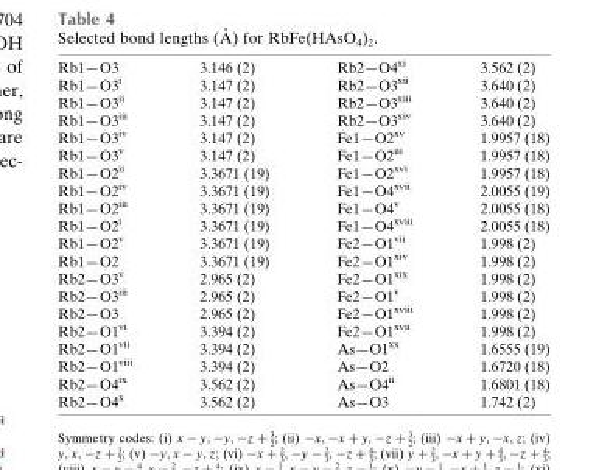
<table><tbody><tr><td>Rb1—O3</td><td>3.146 (2)</td><td>Rb2—O4<sup>xi</sup></td><td>3.562 (2)</td></tr><tr><td>Rb1—O3<sup>i</sup></td><td>3.147 (2)</td><td>Rb2—O3<sup>xii</sup></td><td>3.640 (2)</td></tr><tr><td>Rb1—O3<sup>ii</sup></td><td>3.147 (2)</td><td>Rb2—O3<sup>xiii</sup></td><td>3.640 (2)</td></tr><tr><td>Rb1—O3<sup>iii</sup></td><td>3.147 (2)</td><td>Rb2—O3<sup>xiv</sup></td><td>3.640 (2)</td></tr><tr><td>Rb1—O3<sup>iv</sup></td><td>3.147 (2)</td><td>Fe1—O2<sup>xv</sup></td><td>1.9957 (18)</td></tr><tr><td>Rb1—O3<sup>v</sup></td><td>3.147 (2)</td><td>Fe1—O2<sup>iii</sup></td><td>1.9957 (18)</td></tr><tr><td>Rb1—O2<sup>ii</sup></td><td>3.3671 (19)</td><td>Fe1—O2<sup>xvi</sup></td><td>1.9957 (18)</td></tr><tr><td>Rb1—O2<sup>iv</sup></td><td>3.3671 (19)</td><td>Fe1—O4<sup>xvii</sup></td><td>2.0055 (19)</td></tr><tr><td>Rb1—O2<sup>iii</sup></td><td>3.3671 (19)</td><td>Fe1—O4<sup>v</sup></td><td>2.0055 (18)</td></tr><tr><td>Rb1—O2<sup>i</sup></td><td>3.3671 (19)</td><td>Fe1—O4<sup>xviii</sup></td><td>2.0055 (18)</td></tr><tr><td>Rb1—O2<sup>v</sup></td><td>3.3671 (19)</td><td>Fe2—O1<sup>vii</sup></td><td>1.998 (2)</td></tr><tr><td>Rb1—O2</td><td>3.3671 (19)</td><td>Fe2—O1<sup>xiv</sup></td><td>1.998 (2)</td></tr><tr><td>Rb2—O3<sup>v</sup></td><td>2.965 (2)</td><td>Fe2—O1<sup>xix</sup></td><td>1.998 (2)</td></tr><tr><td>Rb2—O3<sup>iii</sup></td><td>2.965 (2)</td><td>Fe2—O1<sup>v</sup></td><td>1.998 (2)</td></tr><tr><td>Rb2—O3</td><td>2.965 (2)</td><td>Fe2—O1<sup>xviii</sup></td><td>1.998 (2)</td></tr><tr><td>Rb2—O1<sup>vi</sup></td><td>3.394 (2)</td><td>Fe2—O1<sup>xvii</sup></td><td>1.998 (2)</td></tr><tr><td>Rb2—O1<sup>vii</sup></td><td>3.394 (2)</td><td>As—O1<sup>xx</sup></td><td>1.6555 (19)</td></tr><tr><td>Rb2—O1<sup>viii</sup></td><td>3.394 (2)</td><td>As—O2</td><td>1.6720 (18)</td></tr><tr><td>Rb2—O4<sup>ix</sup></td><td>3.562 (2)</td><td>As—O4<sup>ii</sup></td><td>1.6801 (18)</td></tr><tr><td>Rb2—O4<sup>x</sup></td><td>3.562 (2)</td><td>As—O3</td><td>1.742 (2)</td></tr></tbody></table>